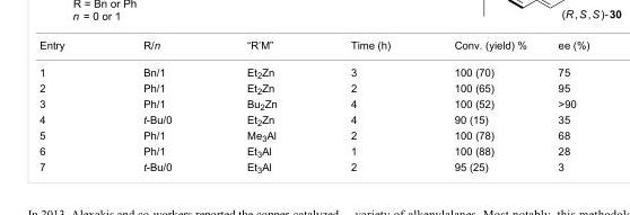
<table><tbody><tr><td>Entry</td><td>R/n</td><td>“R’M”</td><td>Time (h)</td><td>Conv. (yield) %</td><td>ee (%)</td></tr><tr><td>1</td><td>Bn/1</td><td>Et<sub>2</sub>Zn</td><td>3</td><td>100 (70)</td><td>75</td></tr><tr><td>2</td><td>Ph/1</td><td>Et<sub>2</sub>Zn</td><td>2</td><td>100 (65)</td><td>95</td></tr><tr><td>3</td><td>Ph/1</td><td>Bu<sub>2</sub>Zn</td><td>4</td><td>100 (52)</td><td>&gt;90</td></tr><tr><td>4</td><td>t-Bu/0</td><td>Et<sub>2</sub>Zn</td><td>4</td><td>90 (15)</td><td>35</td></tr><tr><td>5</td><td>Ph/1</td><td>Me<sub>3</sub>Al</td><td>2</td><td>100 (78)</td><td>68</td></tr><tr><td>6</td><td>Ph/1</td><td>Et<sub>3</sub>Al</td><td>1</td><td>100 (88)</td><td>28</td></tr><tr><td>7</td><td>t-Bu/0</td><td>Et<sub>3</sub>Al</td><td>2</td><td>95 (25)</td><td>3</td></tr></tbody></table>